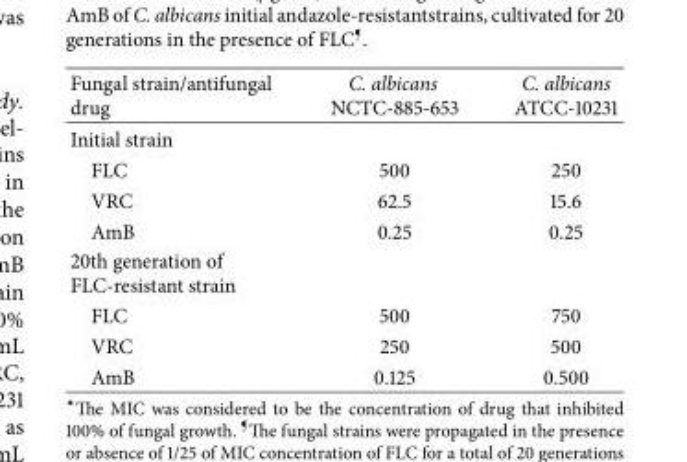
<table><thead><tr><td>Fungal strain/antifungal drug</td><td>C. albicans NCTC-885-653</td><td>C. albicans ATCC-10231</td></tr></thead><tbody><tr><td colspan="3">Initial strain</td></tr><tr><td>FLC</td><td>500</td><td>250</td></tr><tr><td>VRC</td><td>62.5</td><td>15.6</td></tr><tr><td>AmB</td><td>0.25</td><td>0.25</td></tr><tr><td colspan="3">20th generation of FLC-resistant strain</td></tr><tr><td>FLC</td><td>500</td><td>750</td></tr><tr><td>VRC</td><td>250</td><td>500</td></tr><tr><td>AmB</td><td>0.125</td><td>0.500</td></tr></tbody></table>